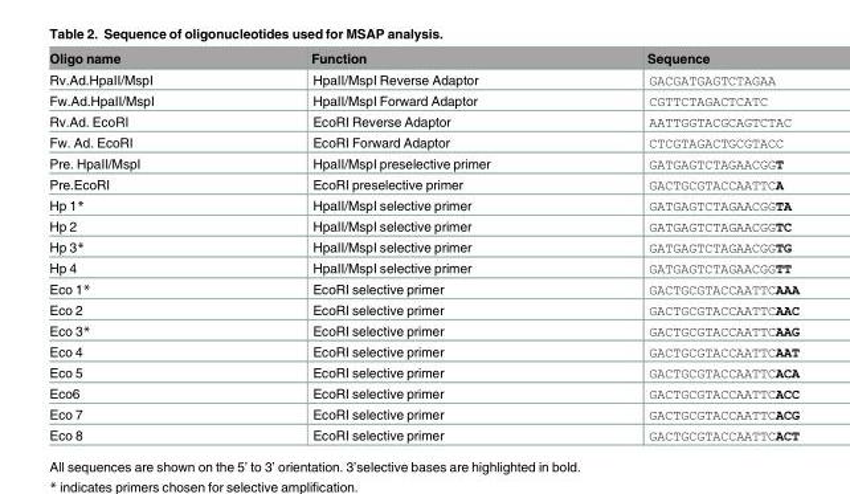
<table><thead><tr><td>Oligo name</td><td>Function</td><td>Sequence</td></tr></thead><tbody><tr><td>Rv.Ad.HpaII/MspI</td><td>HpaII/MspI Reverse Adaptor</td><td>GACGATGAGTCTAGAA</td></tr><tr><td>Fw.Ad.HpaII/MspI</td><td>HpaII/MspI Forward Adaptor</td><td>CGTTCTAGACTCATC</td></tr><tr><td>Rv.Ad. EcoRI</td><td>EcoRI Reverse Adaptor</td><td>AATTGGTACGCAGTCTAC</td></tr><tr><td>Fw. Ad. EcoRI</td><td>EcoRI Forward Adaptor</td><td>CTCGTAGACTGCGTACC</td></tr><tr><td>Pre. HpaII/MspI</td><td>HpaII/MspI preselective primer</td><td>GATGAGTCTAGAACGGT</td></tr><tr><td>Pre.EcoRI</td><td>EcoRI preselective primer</td><td>GACTGCGTACCAATTCA</td></tr><tr><td>Hp 1*</td><td>HpaII/MspI selective primer</td><td>GATGAGTCTAGAACGGTA</td></tr><tr><td>Hp 2</td><td>HpaII/MspI selective primer</td><td>GATGAGTCTAGAACGGTC</td></tr><tr><td>Hp 3*</td><td>HpaII/MspI selective primer</td><td>GATGAGTCTAGAACGGTG</td></tr><tr><td>Hp 4</td><td>HpaII/MspI selective primer</td><td>GATGAGTCTAGAACGGTT</td></tr><tr><td>Eco 1*</td><td>EcoRI selective primer</td><td>GACTGCGTACCAATTCAAA</td></tr><tr><td>Eco 2</td><td>EcoRI selective primer</td><td>GACTGCGTACCAATTCAAC</td></tr><tr><td>Eco 3*</td><td>EcoRI selective primer</td><td>GACTGCGTACCAATTCAAG</td></tr><tr><td>Eco 4</td><td>EcoRI selective primer</td><td>GACTGCGTACCAATTCAAT</td></tr><tr><td>Eco 5</td><td>EcoRI selective primer</td><td>GACTGCGTACCAATTCACA</td></tr><tr><td>Eco6</td><td>EcoRI selective primer</td><td>GACTGCGTACCAATTCACC</td></tr><tr><td>Eco 7</td><td>EcoRI selective primer</td><td>GACTGCGTACCAATTCACG</td></tr><tr><td>Eco 8</td><td>EcoRI selective primer</td><td>GACTGCGTACCAATTCACT</td></tr></tbody></table>